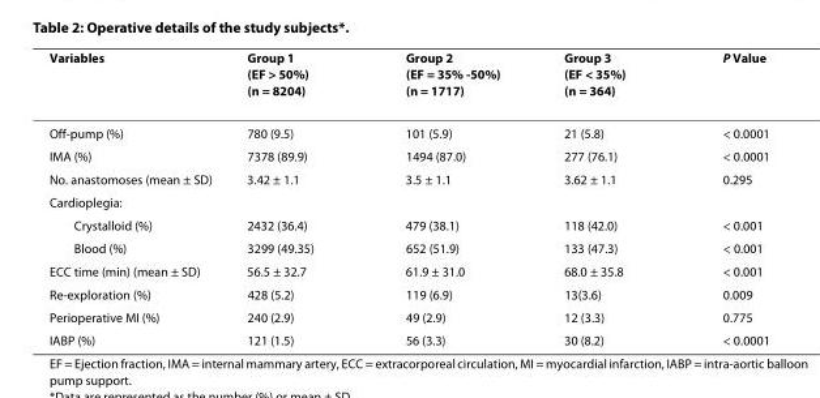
<table><thead><tr><td>Variables</td><td>Group 1 (EF &gt; 50%) (n = 8204)</td><td>Group 2 (EF = 35% -50%) (n = 1717)</td><td>Group 3 (EF &lt; 35%) (n = 364)</td><td>P Value</td></tr></thead><tbody><tr><td>Off-pump (%)</td><td>780 (9.5)</td><td>101 (5.9)</td><td>21 (5.8)</td><td>&lt; 0.0001</td></tr><tr><td>IMA (%)</td><td>7378 (89.9)</td><td>1494 (87.0)</td><td>277 (76.1)</td><td>&lt; 0.0001</td></tr><tr><td>No. anastomoses (mean ± SD)</td><td>3.42 ± 1.1</td><td>3.5 ± 1.1</td><td>3.62 ± 1.1</td><td>0.295</td></tr><tr><td colspan="5">Cardioplegia:</td></tr><tr><td>Crystalloid (%)</td><td>2432 (36.4)</td><td>479 (38.1)</td><td>118 (42.0)</td><td>&lt; 0.001</td></tr><tr><td>Blood (%)</td><td>3299 (49.35)</td><td>652 (51.9)</td><td>133 (47.3)</td><td>&lt; 0.001</td></tr><tr><td>ECC time (min) (mean ± SD)</td><td>56.5 ± 32.7</td><td>61.9 ± 31.0</td><td>68.0 ± 35.8</td><td>&lt; 0.001</td></tr><tr><td>Re-exploration (%)</td><td>428 (5.2)</td><td>119 (6.9)</td><td>13(3.6)</td><td>0.009</td></tr><tr><td>Perioperative MI (%)</td><td>240 (2.9)</td><td>49 (2.9)</td><td>12 (3.3)</td><td>0.775</td></tr><tr><td>IABP (%)</td><td>121 (1.5)</td><td>56 (3.3)</td><td>30 (8.2)</td><td>&lt; 0.0001</td></tr></tbody></table>